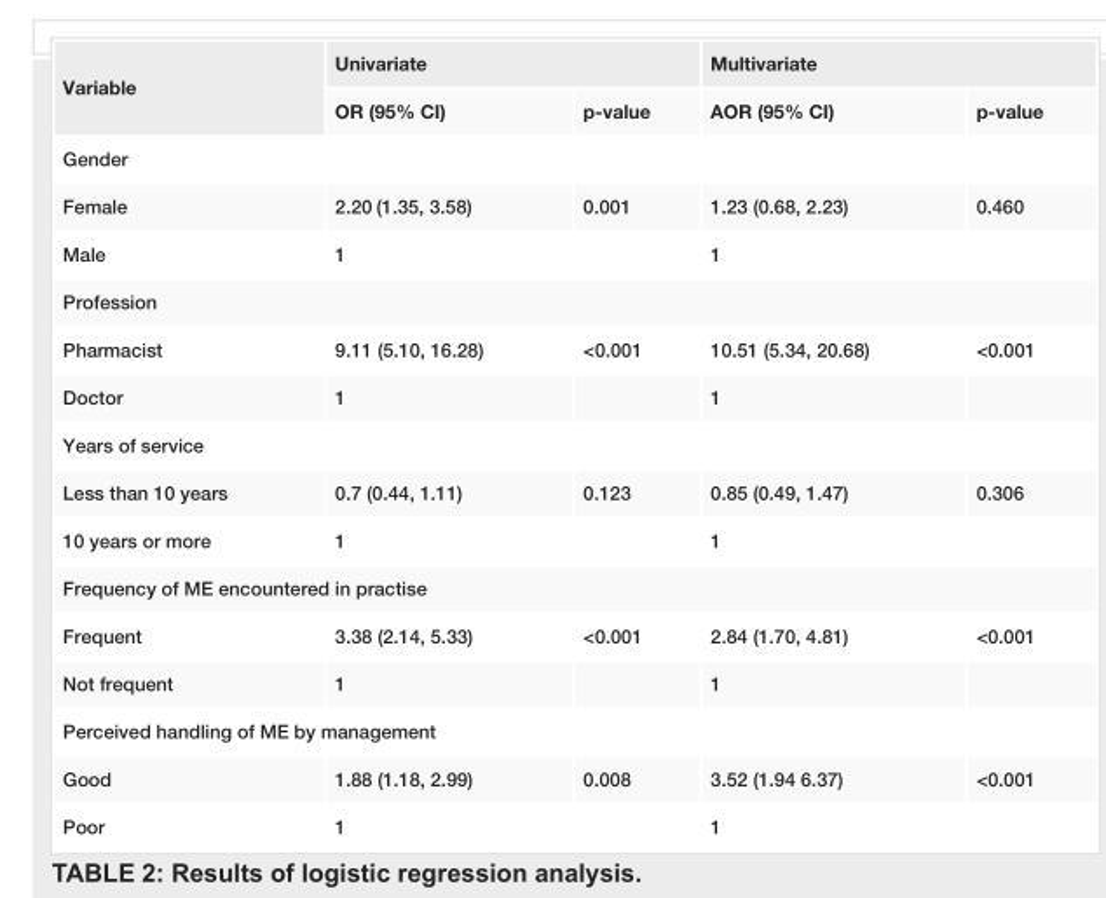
<table><tbody><tr><td rowspan="2">Variable</td><td colspan="2">Univariate</td><td colspan="2">Multivariate</td></tr><tr><td>OR (95% CI)</td><td>p-value</td><td>AOR (95% CI)</td><td>p-value</td></tr><tr><td colspan="5">Gender</td></tr><tr><td>Female</td><td>2.20 (1.35, 3.58)</td><td>0.001</td><td>1.23 (0.68, 2.23)</td><td>0.460</td></tr><tr><td>Male</td><td>1</td><td></td><td>1</td><td></td></tr><tr><td colspan="5">Profession</td></tr><tr><td>Pharmacist</td><td>9.11 (5.10, 16.28)</td><td>&lt;0.001</td><td>10.51 (5.34, 20.68)</td><td>&lt;0.001</td></tr><tr><td>Doctor</td><td>1</td><td></td><td>1</td><td></td></tr><tr><td colspan="5">Years of service</td></tr><tr><td>Less than 10 years</td><td>0.7 (0.44, 1.11)</td><td>0.123</td><td>0.85 (0.49, 1.47)</td><td>0.306</td></tr><tr><td>10 years or more</td><td>1</td><td></td><td>1</td><td></td></tr><tr><td colspan="5">Frequency of ME encountered in practise</td></tr><tr><td>Frequent</td><td>3.38 (2.14, 5.33)</td><td>&lt;0.001</td><td>2.84 (1.70, 4.81)</td><td>&lt;0.001</td></tr><tr><td>Not frequent</td><td>1</td><td></td><td>1</td><td></td></tr><tr><td colspan="5">Perceived handling of ME by management</td></tr><tr><td>Good</td><td>1.88 (1.18, 2.99)</td><td>0.008</td><td>3.52 (1.94 6.37)</td><td>&lt;0.001</td></tr><tr><td>Poor</td><td>1</td><td></td><td>1</td><td></td></tr></tbody></table>